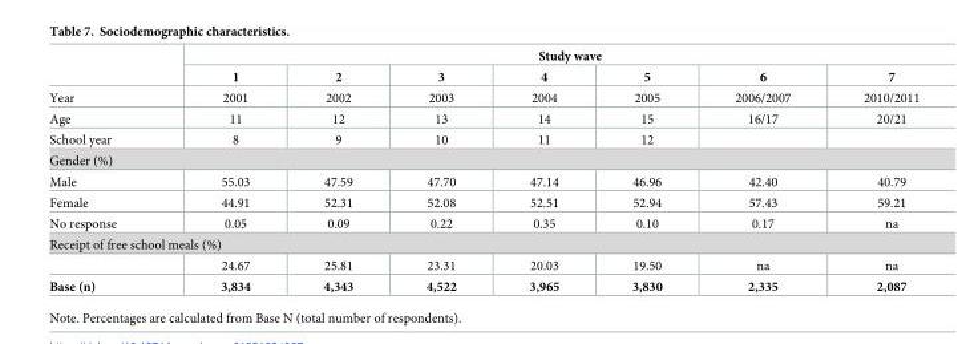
<table><thead><tr><td rowspan="2"></td><td colspan="7">Study wave</td></tr><tr><td>1</td><td>2</td><td>3</td><td>4</td><td>5</td><td>6</td><td>7</td></tr></thead><tbody><tr><td>Year</td><td>2001</td><td>2002</td><td>2003</td><td>2004</td><td>2005</td><td>2006/2007</td><td>2010/2011</td></tr><tr><td>Age</td><td>11</td><td>12</td><td>13</td><td>14</td><td>15</td><td>16/17</td><td>20/21</td></tr><tr><td>School year</td><td>8</td><td>9</td><td>10</td><td>11</td><td>12</td><td></td><td></td></tr><tr><td colspan="8">Gender (%)</td></tr><tr><td>Male</td><td>55.03</td><td>47.59</td><td>47.70</td><td>47.14</td><td>46.96</td><td>42.40</td><td>40.79</td></tr><tr><td>Female</td><td>44.91</td><td>52.31</td><td>52.08</td><td>52.51</td><td>52.94</td><td>57.43</td><td>59.21</td></tr><tr><td>No response</td><td>0.05</td><td>0.09</td><td>0.22</td><td>0.35</td><td>0.10</td><td>0.17</td><td>na</td></tr><tr><td colspan="8">Receipt of free school meals (%)</td></tr><tr><td></td><td>24.67</td><td>25.81</td><td>23.31</td><td>20.03</td><td>19.50</td><td>na</td><td>na</td></tr><tr><td>Base (n)</td><td>3,834</td><td>4,343</td><td>4,522</td><td>3,965</td><td>3,830</td><td>2,335</td><td>2,087</td></tr></tbody></table>